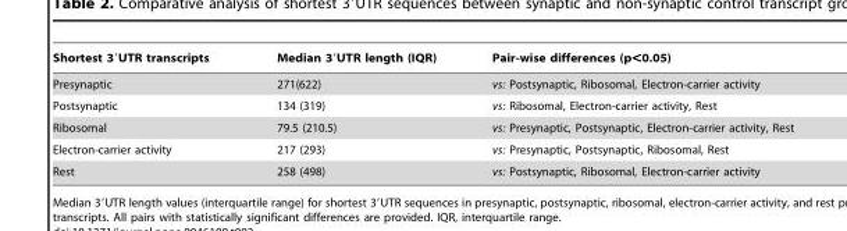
<table><thead><tr><td>Shortest 3′UTR transcripts</td><td>Median 3′UTR length (IQR)</td><td>Pair-wise differences (p&lt;0.05)</td></tr></thead><tbody><tr><td>Presynaptic</td><td>271(622)</td><td>vs: Postsynaptic, Ribosomal, Electron-carrier activity</td></tr><tr><td>Postsynaptic</td><td>134 (319)</td><td>vs: Ribosomal, Electron-carrier activity, Rest</td></tr><tr><td>Ribosomal</td><td>79.5 (210.5)</td><td>vs: Presynaptic, Postsynaptic, Electron-carrier activity, Rest</td></tr><tr><td>Electron-carrier activity</td><td>217 (293)</td><td>vs: Presynaptic, Postsynaptic, Ribosomal, Rest</td></tr><tr><td>Rest</td><td>258 (498)</td><td>vs: Postsynaptic, Ribosomal, Electron-carrier activity</td></tr></tbody></table>